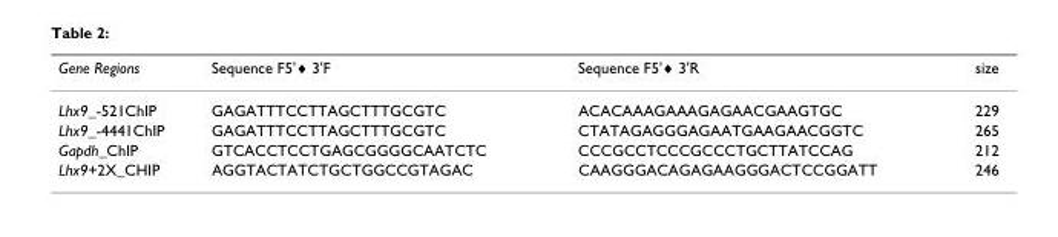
<table><thead><tr><td>Gene Regions</td><td>Sequence F5&#x27;♦ 3&#x27;F</td><td>Sequence F5&#x27;♦ 3&#x27;R</td><td>size</td></tr></thead><tbody><tr><td>Lhx9_-521ChIP</td><td>GAGATTTCCTTAGCTTTGCGTC</td><td>ACACAAAGAAAGAGAACGAAGTGC</td><td>229</td></tr><tr><td>Lhx9_-4441ChIP</td><td>GAGATTTCCTTAGCTTTGCGTC</td><td>CTATAGAGGGAGAATGAAGAACGGTC</td><td>265</td></tr><tr><td>Gapdh_ChIP</td><td>GTCACCTCCTGAGCGGGGCAATCTC</td><td>CCCGCCTCCCGCCCTGCTTATCCAG</td><td>212</td></tr><tr><td>Lhx9+2X_CHIP</td><td>AGGTACTATCTGCTGGCCGTAGAC</td><td>CAAGGGACAGAGAAGGGACTCCGGATT</td><td>246</td></tr></tbody></table>